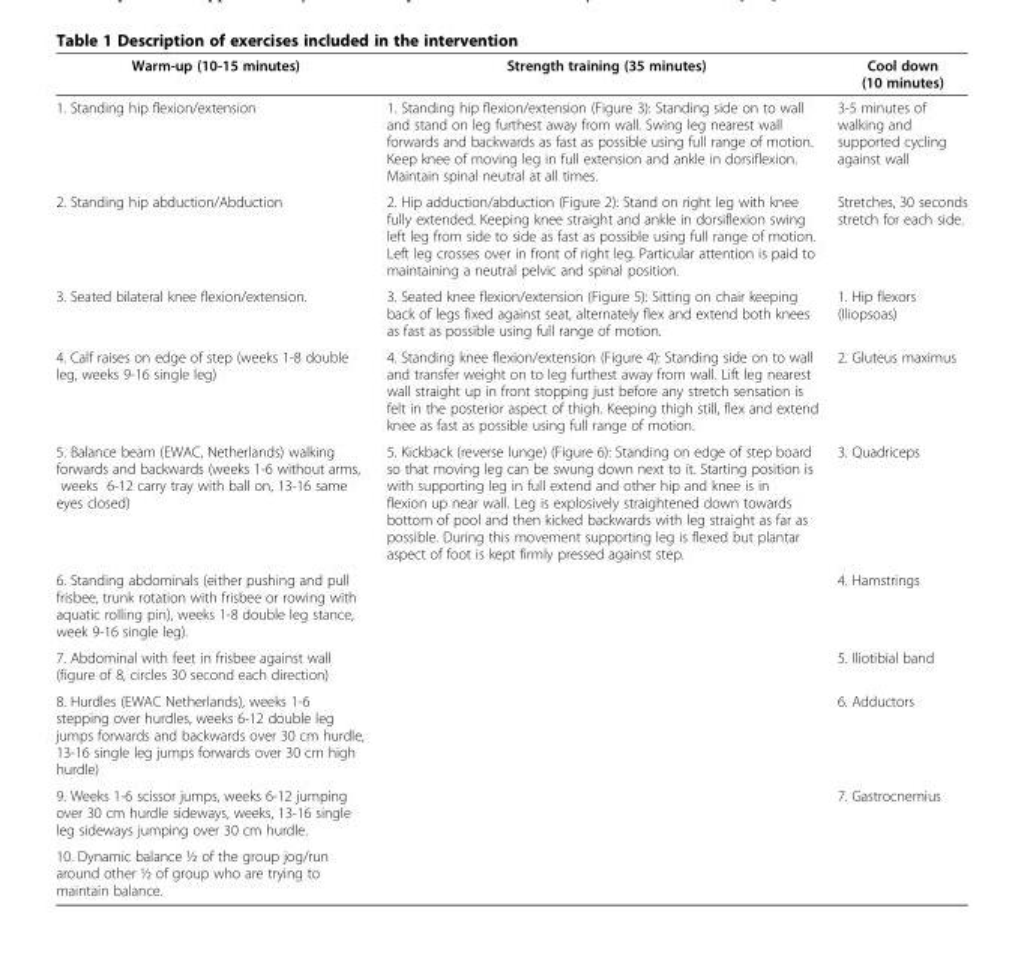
<table><thead><tr><td>Warm-up (10-15 minutes)</td><td>Strength training (35 minutes)</td><td>Cool down (10 minutes)</td></tr></thead><tbody><tr><td>1. Standing hip flexion/extension</td><td>1. Standing hip flexion/extension (Figure 3): Standing side on to wall and stand on leg furthest away from wall. Swing leg nearest wall forwards and backwards as fast as possible using full range of motion. Keep knee of moving leg in full extension and ankle in dorsiflexion. Maintain spinal neutral at all times.</td><td>3-5 minutes of walking and supported cycling against wall</td></tr><tr><td>2. Standing hip abduction/Abduction</td><td>2. Hip adduction/abduction (Figure 2): Stand on right leg with knee fully extended. Keeping knee straight and ankle in dorsiflexion swing left leg from side to side as fast as possible using full range of motion. Left leg crosses over in front of right leg. Particular attention is paid to maintaining a neutral pelvic and spinal position.</td><td>Stretches, 30 seconds stretch for each side.</td></tr><tr><td>3. Seated bilateral knee flexion/extension.</td><td>3. Seated knee flexion/extension (Figure 5): Sitting on chair keeping back of legs fixed against seat, alternately flex and extend both knees as fast as possible using full range of motion.</td><td>1. Hip flexors (Iliopsoas)</td></tr><tr><td>4. Calf raises on edge of step (weeks 1-8 double leg, weeks 9-16 single leg)</td><td>4. Standing knee flexion/extension (Figure 4): Standing side on to wall and transfer weight on to leg furthest away from wall. Lift leg nearest wall straight up in front stopping just before any stretch sensation is felt in the posterior aspect of thigh. Keeping thigh still, flex and extend knee as fast as possible using full range of motion.</td><td>2. Gluteus maximus</td></tr><tr><td>5. Balance beam (EWAC, Netherlands) walking forwards and backwards (weeks 1-6 without arms, weeks 6-12 carry tray with ball on, 13-16 same eyes closed)</td><td>5. Kickback (reverse lunge) (Figure 6): Standing on edge of step board so that moving leg can be swung down next to it. Starting position is with supporting leg in full extend and other hip and knee is in flexion up near wall. Leg is explosively straightened down towards bottom of pool and then kicked backwards with leg straight as far as possible. During this movement supporting leg is flexed but plantar aspect of foot is kept firmly pressed against step.</td><td>3. Quadriceps</td></tr><tr><td>6. Standing abdominals (either pushing and pull frisbee, trunk rotation with frisbee or rowing with aquatic rolling pin), weeks 1-8 double leg stance, week 9-16 single leg).</td><td rowspan="5"></td><td>4. Hamstrings</td></tr><tr><td>7. Abdominal with feet in frisbee against wall (figure of 8, circles 30 second each direction)</td><td>5. Iliotibial band</td></tr><tr><td>8. Hurdles (EWAC Netherlands), weeks 1-6 stepping over hurdles, weeks 6-12 double leg jumps forwards and backwards over 30 cm hurdle, 13-16 single leg jumps forwards over 30 cm high hurdle)</td><td>6. Adductors</td></tr><tr><td>9. Weeks 1-6 scissor jumps, weeks 6-12 jumping over 30 cm hurdle sideways, weeks, 13-16 single leg sideways jumping over 30 cm hurdle.</td><td rowspan="2">7. Gastrocnemius</td></tr><tr><td>10. Dynamic balance ½ of the group jog/run around other ½ of group who are trying to maintain balance.</td></tr></tbody></table>